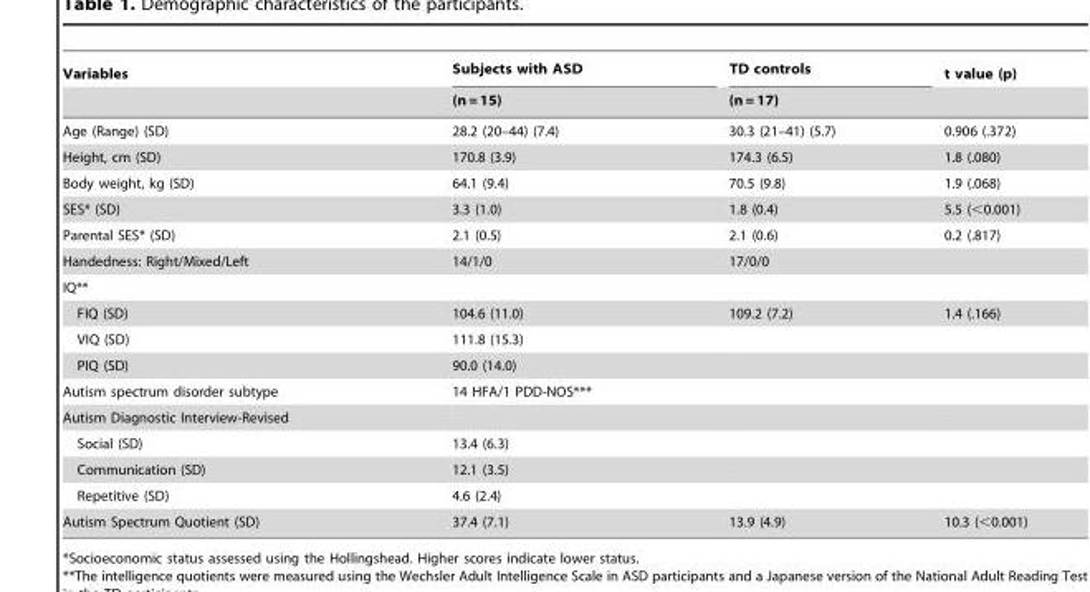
<table><thead><tr><td rowspan="2">Variables</td><td rowspan="2">Subjects with ASD (n = 15)</td><td rowspan="2">TD controls (n = 17)</td><td rowspan="2">t value (p)</td></tr><tr></tr></thead><tbody><tr><td>Age (Range) (SD)</td><td>28.2 (20–44) (7.4)</td><td>30.3 (21–41) (5.7)</td><td>0.906 (.372)</td></tr><tr><td>Height, cm (SD)</td><td>170.8 (3.9)</td><td>174.3 (6.5)</td><td>1.8 (.080)</td></tr><tr><td>Body weight, kg (SD)</td><td>64.1 (9.4)</td><td>70.5 (9.8)</td><td>1.9 (.068)</td></tr><tr><td>SES* (SD)</td><td>3.3 (1.0)</td><td>1.8 (0.4)</td><td>5.5 (&lt;0.001)</td></tr><tr><td>Parental SES* (SD)</td><td>2.1 (0.5)</td><td>2.1 (0.6)</td><td>0.2 (.817)</td></tr><tr><td>Handedness: Right/Mixed/Left</td><td>14/1/0</td><td>17/0/0</td><td></td></tr><tr><td colspan="4">IQ**</td></tr><tr><td>FIQ (SD)</td><td>104.6 (11.0)</td><td>109.2 (7.2)</td><td>1.4 (.166)</td></tr><tr><td>VIQ (SD)</td><td>111.8 (15.3)</td><td></td><td></td></tr><tr><td>PIQ (SD)</td><td>90.0 (14.0)</td><td></td><td></td></tr><tr><td>Autism spectrum disorder subtype</td><td>14 HFA/1 PDD-NOS***</td><td></td><td></td></tr><tr><td colspan="4">Autism Diagnostic Interview-Revised</td></tr><tr><td>Social (SD)</td><td>13.4 (6.3)</td><td></td><td></td></tr><tr><td>Communication (SD)</td><td>12.1 (3.5)</td><td></td><td></td></tr><tr><td>Repetitive (SD)</td><td>4.6 (2.4)</td><td></td><td></td></tr><tr><td>Autism Spectrum Quotient (SD)</td><td>37.4 (7.1)</td><td>13.9 (4.9)</td><td>10.3 (&lt;0.001)</td></tr></tbody></table>